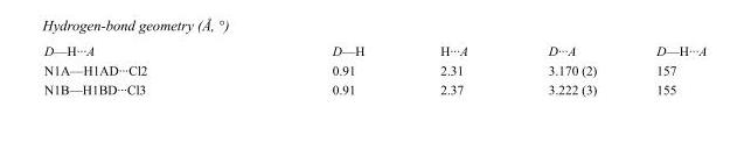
<table><tbody><tr><td>D—H···A</td><td>D—H</td><td>H···A</td><td>D···A</td><td>D—H···A</td></tr><tr><td>N1A—H1AD···Cl2</td><td>0.91</td><td>2.31</td><td>3.170 (2)</td><td>157</td></tr><tr><td>N1B—H1BD···Cl3</td><td>0.91</td><td>2.37</td><td>3.222 (3)</td><td>155</td></tr></tbody></table>